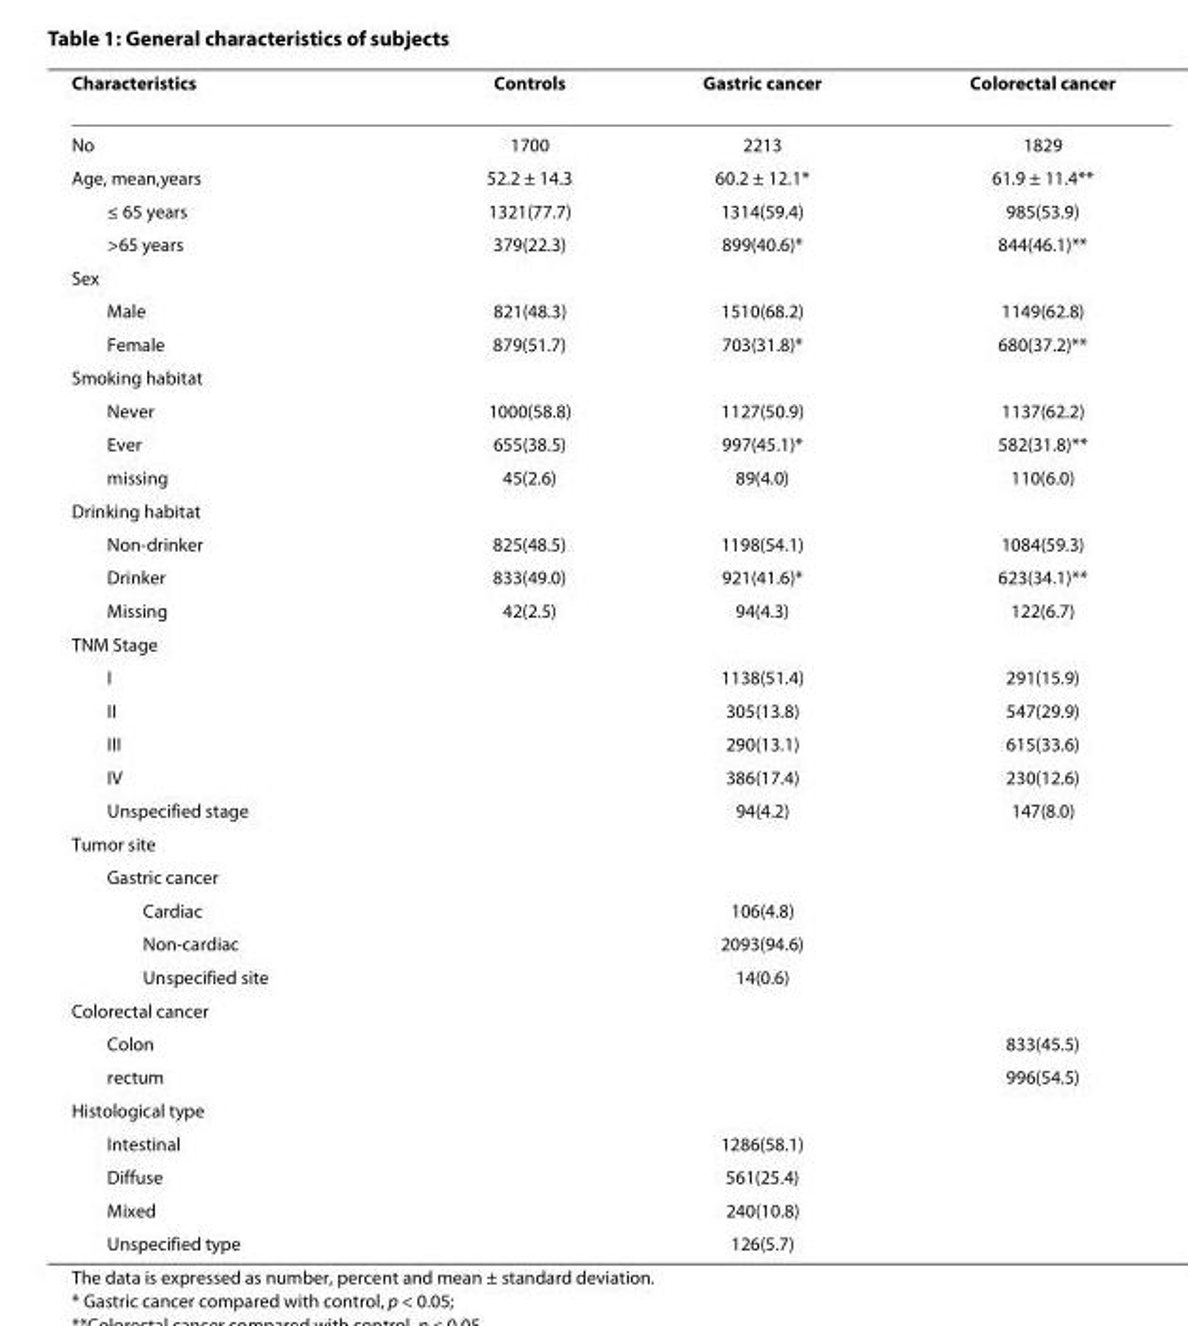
<table><thead><tr><td>Characteristics</td><td>Controls</td><td>Gastric cancer</td><td>Colorectal cancer</td></tr></thead><tbody><tr><td>No</td><td>1700</td><td>2213</td><td>1829</td></tr><tr><td>Age, mean,years</td><td>52.2 ± 14.3</td><td>60.2 ± 12.1*</td><td>61.9 ± 11.4**</td></tr><tr><td>≤ 65 years</td><td>1321(77.7)</td><td>1314(59.4)</td><td>985(53.9)</td></tr><tr><td>&gt;65 years</td><td>379(22.3)</td><td>899(40.6)*</td><td>844(46.1)**</td></tr><tr><td colspan="4">Sex</td></tr><tr><td>Male</td><td>821(48.3)</td><td>1510(68.2)</td><td>1149(62.8)</td></tr><tr><td>Female</td><td>879(51.7)</td><td>703(31.8)*</td><td>680(37.2)**</td></tr><tr><td colspan="4">Smoking habitat</td></tr><tr><td>Never</td><td>1000(58.8)</td><td>1127(50.9)</td><td>1137(62.2)</td></tr><tr><td>Ever</td><td>655(38.5)</td><td>997(45.1)*</td><td>582(31.8)**</td></tr><tr><td>missing</td><td>45(2.6)</td><td>89(4.0)</td><td>110(6.0)</td></tr><tr><td colspan="4">Drinking habitat</td></tr><tr><td>Non-drinker</td><td>825(48.5)</td><td>1198(54.1)</td><td>1084(59.3)</td></tr><tr><td>Drinker</td><td>833(49.0)</td><td>921(41.6)*</td><td>623(34.1)**</td></tr><tr><td>Missing</td><td>42(2.5)</td><td>94(4.3)</td><td>122(6.7)</td></tr><tr><td colspan="4">TNM Stage</td></tr><tr><td>I</td><td></td><td>1138(51.4)</td><td>291(15.9)</td></tr><tr><td>II</td><td></td><td>305(13.8)</td><td>547(29.9)</td></tr><tr><td>III</td><td></td><td>290(13.1)</td><td>615(33.6)</td></tr><tr><td>IV</td><td></td><td>386(17.4)</td><td>230(12.6)</td></tr><tr><td>Unspecified stage</td><td></td><td>94(4.2)</td><td>147(8.0)</td></tr><tr><td colspan="4">Tumor site</td></tr><tr><td colspan="4">Gastric cancer</td></tr><tr><td>Cardiac</td><td></td><td>106(4.8)</td><td></td></tr><tr><td>Non-cardiac</td><td></td><td>2093(94.6)</td><td></td></tr><tr><td>Unspecified site</td><td></td><td>14(0.6)</td><td></td></tr><tr><td colspan="4">Colorectal cancer</td></tr><tr><td>Colon</td><td></td><td></td><td>833(45.5)</td></tr><tr><td>rectum</td><td></td><td></td><td>996(54.5)</td></tr><tr><td colspan="4">Histological type</td></tr><tr><td>Intestinal</td><td></td><td>1286(58.1)</td><td></td></tr><tr><td>Diffuse</td><td></td><td>561(25.4)</td><td></td></tr><tr><td>Mixed</td><td></td><td>240(10.8)</td><td></td></tr><tr><td>Unspecified type</td><td></td><td>126(5.7)</td><td></td></tr></tbody></table>